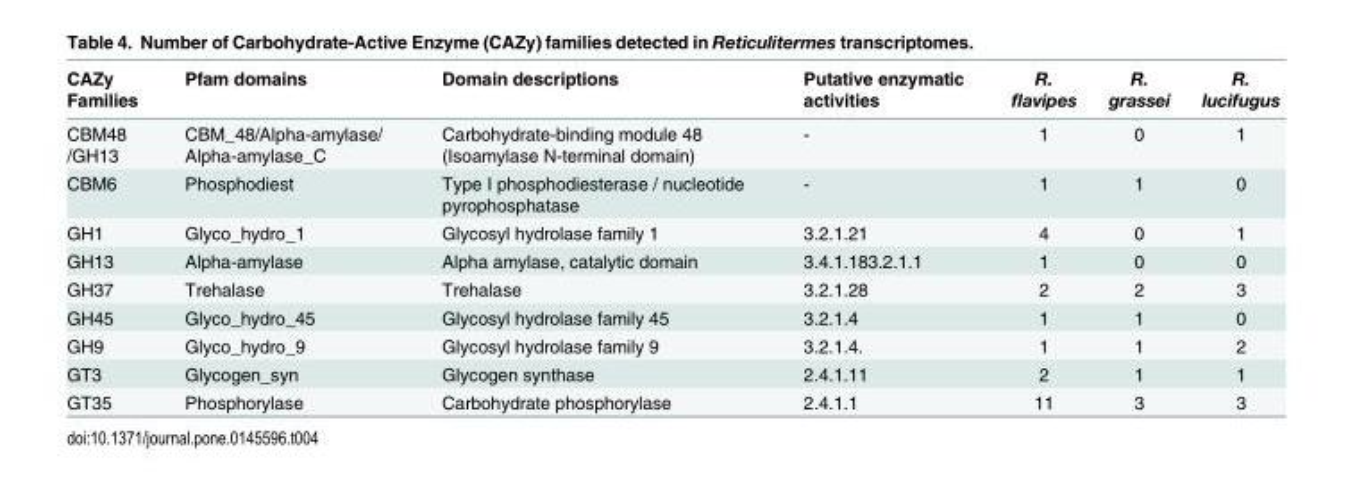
<table><thead><tr><td>CAZy Families</td><td>Pfam domains</td><td>Domain descriptions</td><td>Putative enzymatic activities</td><td>R. flavipes</td><td>R. grassei</td><td>R. lucifugus</td></tr></thead><tbody><tr><td>CBM48 /GH13</td><td>CBM_48/Alpha-amylase/ Alpha-amylase_C</td><td>Carbohydrate-binding module 48 (Isoamylase N-terminal domain)</td><td>-</td><td>1</td><td>0</td><td>1</td></tr><tr><td>CBM6</td><td>Phosphodiest</td><td>Type I phosphodiesterase / nucleotide pyrophosphatase</td><td>-</td><td>1</td><td>1</td><td>0</td></tr><tr><td>GH1</td><td>Glyco_hydro_1</td><td>Glycosyl hydrolase family 1</td><td>3.2.1.21</td><td>4</td><td>0</td><td>1</td></tr><tr><td>GH13</td><td>Alpha-amylase</td><td>Alpha amylase, catalytic domain</td><td>3.4.1.183.2.1.1</td><td>1</td><td>0</td><td>0</td></tr><tr><td>GH37</td><td>Trehalase</td><td>Trehalase</td><td>3.2.1.28</td><td>2</td><td>2</td><td>3</td></tr><tr><td>GH45</td><td>Glyco_hydro_45</td><td>Glycosyl hydrolase family 45</td><td>3.2.1.4</td><td>1</td><td>1</td><td>0</td></tr><tr><td>GH9</td><td>Glyco_hydro_9</td><td>Glycosyl hydrolase family 9</td><td>3.2.1.4.</td><td>1</td><td>1</td><td>2</td></tr><tr><td>GT3</td><td>Glycogen_syn</td><td>Glycogen synthase</td><td>2.4.1.11</td><td>2</td><td>1</td><td>1</td></tr><tr><td>GT35</td><td>Phosphorylase</td><td>Carbohydrate phosphorylase</td><td>2.4.1.1</td><td>11</td><td>3</td><td>3</td></tr></tbody></table>